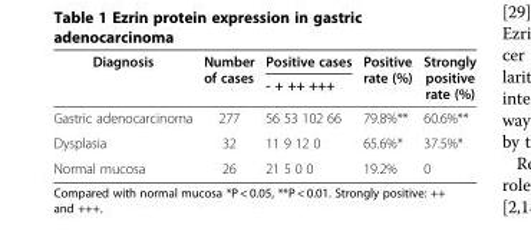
<table><thead><tr><td rowspan="2">Diagnosis</td><td rowspan="2">Number of cases</td><td rowspan="2">Positive cases - + ++ +++</td><td rowspan="2">Positive rate (%)</td><td rowspan="2">Strongly positive rate (%)</td></tr><tr></tr></thead><tbody><tr><td>Gastric adenocarcinoma</td><td>277</td><td>56 53 102 66</td><td>79.8%**</td><td>60.6%**</td></tr><tr><td>Dysplasia</td><td>32</td><td>11 9 12 0</td><td>65.6%*</td><td>37.5%*</td></tr><tr><td>Normal mucosa</td><td>26</td><td>21 5 0 0</td><td>19.2%</td><td>0</td></tr></tbody></table>